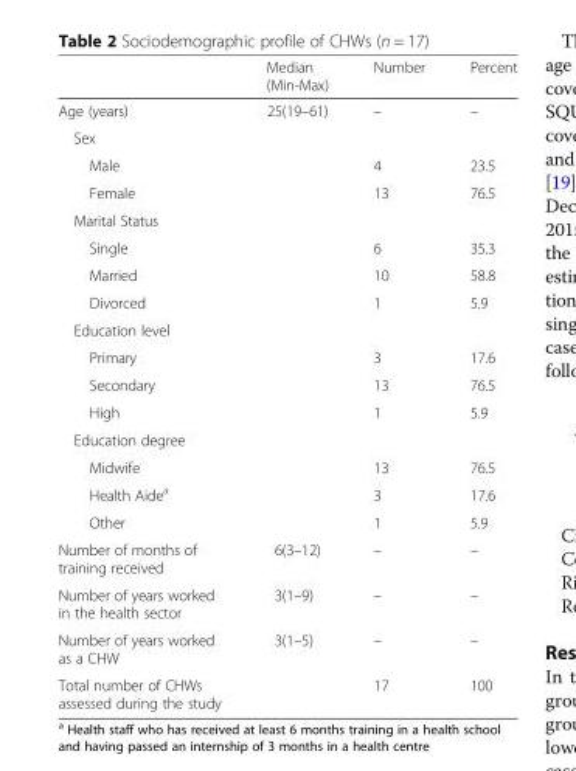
<table><thead><tr><td></td><td>Median (Min-Max)</td><td>Number</td><td>Percent</td></tr></thead><tbody><tr><td>Age (years)</td><td>25(19–61)</td><td>–</td><td>–</td></tr><tr><td colspan="4">Sex</td></tr><tr><td>Male</td><td></td><td>4</td><td>23.5</td></tr><tr><td>Female</td><td></td><td>13</td><td>76.5</td></tr><tr><td colspan="4">Marital Status</td></tr><tr><td>Single</td><td></td><td>6</td><td>35.3</td></tr><tr><td>Married</td><td></td><td>10</td><td>58.8</td></tr><tr><td>Divorced</td><td></td><td>1</td><td>5.9</td></tr><tr><td colspan="4">Education level</td></tr><tr><td>Primary</td><td></td><td>3</td><td>17.6</td></tr><tr><td>Secondary</td><td></td><td>13</td><td>76.5</td></tr><tr><td>High</td><td></td><td>1</td><td>5.9</td></tr><tr><td colspan="4">Education degree</td></tr><tr><td>Midwife</td><td></td><td>13</td><td>76.5</td></tr><tr><td>Health Aide<sup>a</sup></td><td></td><td>3</td><td>17.6</td></tr><tr><td>Other</td><td></td><td>1</td><td>5.9</td></tr><tr><td>Number of months of training received</td><td>6(3–12)</td><td>–</td><td>–</td></tr><tr><td>Number of years worked in the health sector</td><td>3(1–9)</td><td>–</td><td>–</td></tr><tr><td>Number of years worked as a CHW</td><td>3(1–5)</td><td>–</td><td>–</td></tr><tr><td>Total number of CHWs assessed during the study</td><td></td><td>17</td><td>100</td></tr></tbody></table>